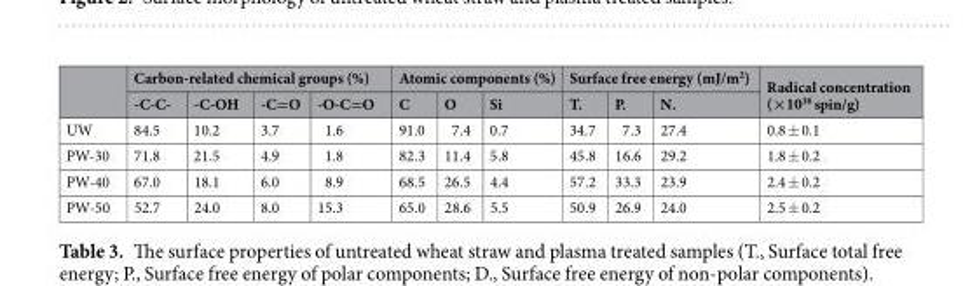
<table><thead><tr><td rowspan="2"></td><td colspan="4">Carbon-related chemical groups (%)</td><td colspan="3">Atomic components (%)</td><td colspan="3">Surface free energy (mJ/m<sup>2</sup>)</td><td rowspan="2">Radical concentration (×10<sup>16</sup> spin/g)</td></tr><tr><td>-C-C-</td><td>-C-OH</td><td>-C=O</td><td>-O-C=O</td><td>C</td><td>O</td><td>Si</td><td>T.</td><td>P.</td><td>N.</td></tr></thead><tbody><tr><td>UW</td><td>84.5</td><td>10.2</td><td>3.7</td><td>1.6</td><td>91.0</td><td>7.4</td><td>0.7</td><td>34.7</td><td>7.3</td><td>27.4</td><td>0.8 ± 0.1</td></tr><tr><td>PW-30</td><td>71.8</td><td>21.5</td><td>4.9</td><td>1.8</td><td>82.3</td><td>11.4</td><td>5.8</td><td>45.8</td><td>16.6</td><td>29.2</td><td>1.8 ± 0.2</td></tr><tr><td>PW-40</td><td>67.0</td><td>18.1</td><td>6.0</td><td>8.9</td><td>68.5</td><td>26.5</td><td>4.4</td><td>57.2</td><td>33.3</td><td>23.9</td><td>2.4 ± 0.2</td></tr><tr><td>PW-50</td><td>52.7</td><td>24.0</td><td>8.0</td><td>15.3</td><td>65.0</td><td>28.6</td><td>5.5</td><td>50.9</td><td>26.9</td><td>24.0</td><td>2.5 ± 0.2</td></tr></tbody></table>